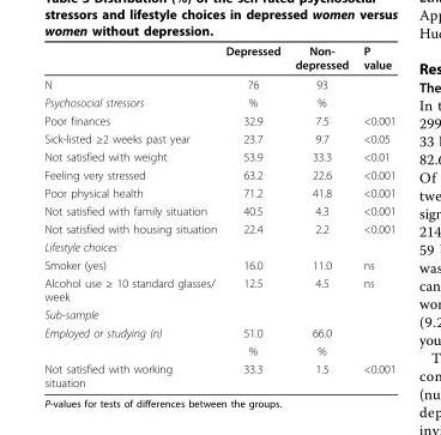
<table><thead><tr><td></td><td>Depressed</td><td>Non- depressed</td><td>P value</td></tr></thead><tbody><tr><td>N</td><td>76</td><td>93</td><td></td></tr><tr><td>Psychosocial stressors</td><td>%</td><td>%</td><td></td></tr><tr><td>Poor finances</td><td>32.9</td><td>7.5</td><td>&lt;0.001</td></tr><tr><td>Sick-listed ≥2 weeks past year</td><td>23.7</td><td>9.7</td><td>&lt;0.05</td></tr><tr><td>Not satisfied with weight</td><td>53.9</td><td>33.3</td><td>&lt;0.01</td></tr><tr><td>Feeling very stressed</td><td>63.2</td><td>22.6</td><td>&lt;0.001</td></tr><tr><td>Poor physical health</td><td>71.2</td><td>41.8</td><td>&lt;0.001</td></tr><tr><td>Not satisfied with family situation</td><td>40.5</td><td>4.3</td><td>&lt;0.001</td></tr><tr><td>Not satisfied with housing situation</td><td>22.4</td><td>2.2</td><td>&lt;0.001</td></tr><tr><td colspan="4">Lifestyle choices</td></tr><tr><td>Smoker (yes)</td><td>16.0</td><td>11.0</td><td>ns</td></tr><tr><td>Alcohol use ≥ 10 standard glasses/ week</td><td>12.5</td><td>4.5</td><td>ns</td></tr><tr><td colspan="4">Sub-sample</td></tr><tr><td rowspan="2">Employed or studying (n)</td><td>51.0</td><td>66.0</td><td></td></tr><tr><td>%</td><td>%</td><td></td></tr><tr><td>Not satisfied with working situation</td><td>33.3</td><td>1.5</td><td>&lt;0.001</td></tr></tbody></table>